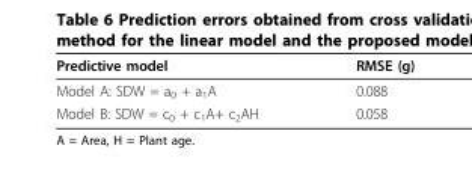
<table><thead><tr><td>Predictive model</td><td>RMSE (g)</td></tr></thead><tbody><tr><td>Model A: SDW = a<sub>0</sub> + a<sub>1</sub>A</td><td>0.088</td></tr><tr><td>Model B: SDW = c<sub>0</sub> + c<sub>1</sub>A+ c<sub>2</sub>AH</td><td>0.058</td></tr></tbody></table>